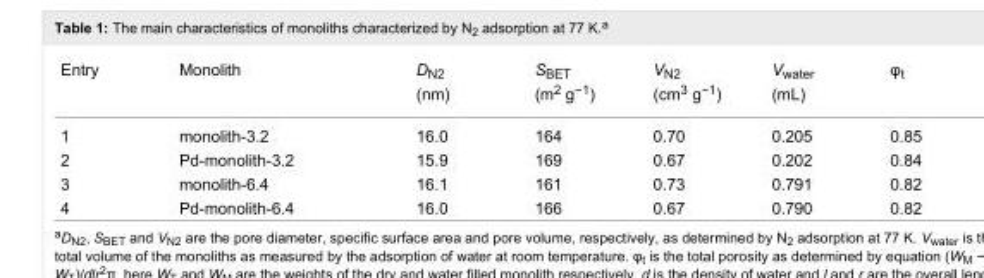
<table><tbody><tr><td>Entry</td><td>Monolith</td><td>D<sub>N2</sub></td><td>S<sub>BET</sub></td><td>V<sub>N2</sub></td><td>V<sub>water</sub></td><td>φ<sub>t</sub></td></tr><tr><td colspan="2"></td><td>(nm)</td><td>(m<sup>2</sup> g<sup>−1</sup>)</td><td>(cm<sup>3</sup> g<sup>−1</sup>)</td><td>(mL)</td><td></td></tr><tr><td>1</td><td>monolith-3.2</td><td>16.0</td><td>164</td><td>0.70</td><td>0.205</td><td>0.85</td></tr><tr><td>2</td><td>Pd-monolith-3.2</td><td>15.9</td><td>169</td><td>0.67</td><td>0.202</td><td>0.84</td></tr><tr><td>3</td><td>monolith-6.4</td><td>16.1</td><td>161</td><td>0.73</td><td>0.791</td><td>0.82</td></tr><tr><td>4</td><td>Pd-monolith-6.4</td><td>16.0</td><td>166</td><td>0.67</td><td>0.790</td><td>0.82</td></tr></tbody></table>